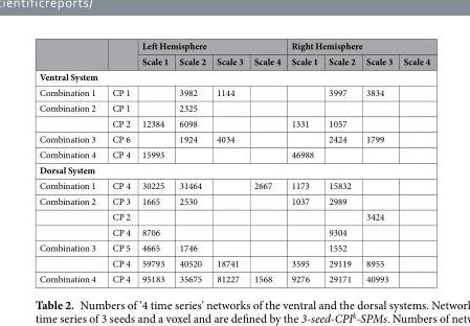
<table><thead><tr><td rowspan="2"></td><td rowspan="2"></td><td colspan="4">Left Hemisphere</td><td colspan="4">Right Hemisphere</td></tr><tr><td>Scale 1</td><td>Scale 2</td><td>Scale 3</td><td>Scale 4</td><td>Scale 1</td><td>Scale 2</td><td>Scale 3</td><td>Scale 4</td></tr></thead><tbody><tr><td colspan="10">Ventral System</td></tr><tr><td>Combination 1</td><td>CP 1</td><td></td><td>3982</td><td>1144</td><td></td><td></td><td>3997</td><td>3834</td><td></td></tr><tr><td rowspan="2">Combination 2</td><td>CP 1</td><td></td><td>2325</td><td></td><td></td><td></td><td></td><td></td><td></td></tr><tr><td>CP 2</td><td>12384</td><td>6098</td><td></td><td></td><td>1331</td><td>1057</td><td></td><td></td></tr><tr><td>Combination 3</td><td>CP 6</td><td></td><td>1924</td><td>4034</td><td></td><td></td><td>2424</td><td>1799</td><td></td></tr><tr><td>Combination 4</td><td>CP 4</td><td>15993</td><td></td><td></td><td></td><td>46988</td><td></td><td></td><td></td></tr><tr><td colspan="10">Dorsal System</td></tr><tr><td>Combination 1</td><td>CP 4</td><td>30225</td><td>31464</td><td></td><td>2667</td><td>1173</td><td>15832</td><td></td><td></td></tr><tr><td rowspan="3">Combination 2</td><td>CP 3</td><td>1665</td><td>2530</td><td></td><td></td><td>1037</td><td>2989</td><td></td><td></td></tr><tr><td>CP 2</td><td></td><td></td><td></td><td></td><td></td><td></td><td>3424</td><td></td></tr><tr><td>CP 4</td><td>8706</td><td></td><td></td><td></td><td></td><td>9304</td><td></td><td></td></tr><tr><td rowspan="2">Combination 3</td><td>CP 5</td><td>4665</td><td>1746</td><td></td><td></td><td></td><td>1552</td><td></td><td></td></tr><tr><td>CP 4</td><td>59793</td><td>40520</td><td>18741</td><td></td><td>3595</td><td>29119</td><td>8955</td><td></td></tr><tr><td>Combination 4</td><td>CP 4</td><td>95183</td><td>35675</td><td>81227</td><td>1568</td><td>9276</td><td>29171</td><td>40993</td><td></td></tr></tbody></table>